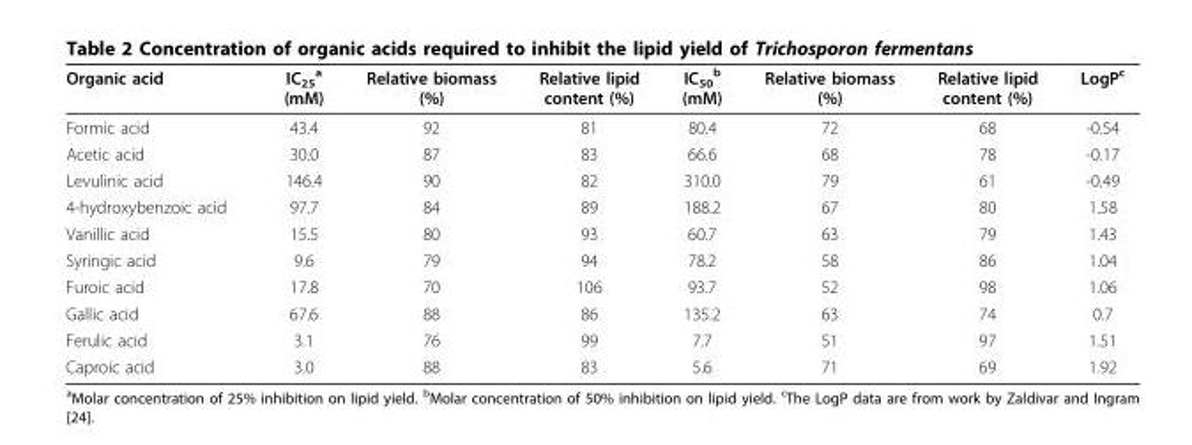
<table><thead><tr><td>Organic acid</td><td>IC<sub>25</sub> <sup>a</sup> (mM)</td><td>Relative biomass (%)</td><td>Relative lipid content (%)</td><td>IC<sub>50</sub> <sup>b</sup> (mM)</td><td>Relative biomass (%)</td><td>Relative lipid content (%)</td><td>LogP<sup>c</sup></td></tr></thead><tbody><tr><td>Formic acid</td><td>43.4</td><td>92</td><td>81</td><td>80.4</td><td>72</td><td>68</td><td>-0.54</td></tr><tr><td>Acetic acid</td><td>30.0</td><td>87</td><td>83</td><td>66.6</td><td>68</td><td>78</td><td>-0.17</td></tr><tr><td>Levulinic acid</td><td>146.4</td><td>90</td><td>82</td><td>310.0</td><td>79</td><td>61</td><td>-0.49</td></tr><tr><td>4-hydroxybenzoic acid</td><td>97.7</td><td>84</td><td>89</td><td>188.2</td><td>67</td><td>80</td><td>1.58</td></tr><tr><td>Vanillic acid</td><td>15.5</td><td>80</td><td>93</td><td>60.7</td><td>63</td><td>79</td><td>1.43</td></tr><tr><td>Syringic acid</td><td>9.6</td><td>79</td><td>94</td><td>78.2</td><td>58</td><td>86</td><td>1.04</td></tr><tr><td>Furoic acid</td><td>17.8</td><td>70</td><td>106</td><td>93.7</td><td>52</td><td>98</td><td>1.06</td></tr><tr><td>Gallic acid</td><td>67.6</td><td>88</td><td>86</td><td>135.2</td><td>63</td><td>74</td><td>0.7</td></tr><tr><td>Ferulic acid</td><td>3.1</td><td>76</td><td>99</td><td>7.7</td><td>51</td><td>97</td><td>1.51</td></tr><tr><td>Caproic acid</td><td>3.0</td><td>88</td><td>83</td><td>5.6</td><td>71</td><td>69</td><td>1.92</td></tr></tbody></table>